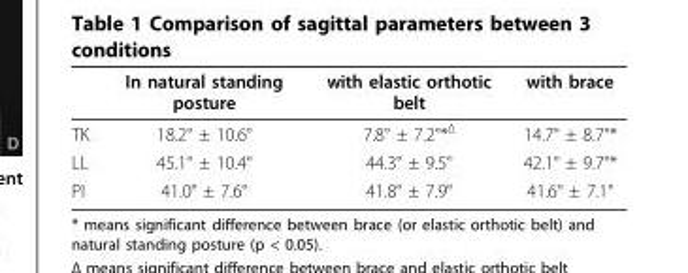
<table><thead><tr><td></td><td>In natural standing posture</td><td>with elastic orthotic belt</td><td>with brace</td></tr></thead><tbody><tr><td>TK</td><td>18.2° ± 10.6°</td><td>7.8° ± 7.2°*<sup>Δ</sup></td><td>14.7° ± 8.7°*</td></tr><tr><td>LL</td><td>45.1° ± 10.4°</td><td>44.3° ± 9.5°</td><td>42.1° ± 9.7°*</td></tr><tr><td>PI</td><td>41.0° ± 7.6°</td><td>41.8° ± 7.9°</td><td>41.6° ± 7.1°</td></tr></tbody></table>